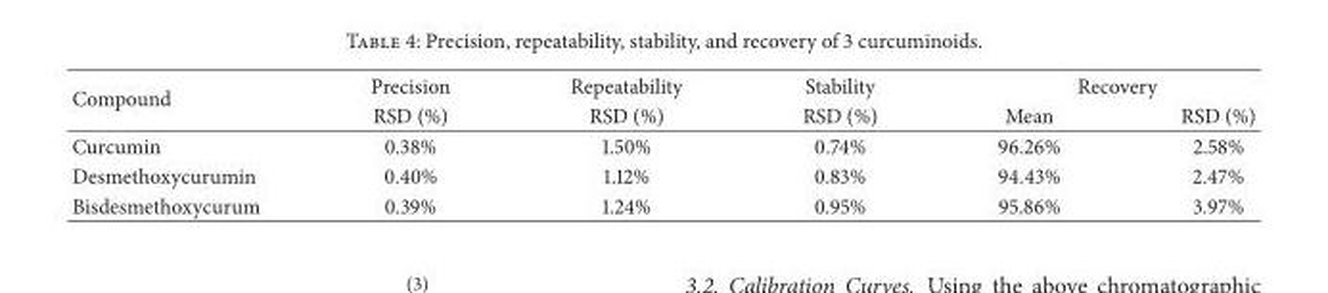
<table><thead><tr><td rowspan="2">Compound</td><td rowspan="2">Precision RSD (%)</td><td rowspan="2">Repeatability RSD (%)</td><td rowspan="2">Stability RSD (%)</td><td colspan="2">Recovery</td></tr><tr><td>Mean</td><td>RSD (%)</td></tr></thead><tbody><tr><td>Curcumin</td><td>0.38%</td><td>1.50%</td><td>0.74%</td><td>96.26%</td><td>2.58%</td></tr><tr><td>Desmethoxycurumin</td><td>0.40%</td><td>1.12%</td><td>0.83%</td><td>94.43%</td><td>2.47%</td></tr><tr><td>Bisdesmethoxycurum</td><td>0.39%</td><td>1.24%</td><td>0.95%</td><td>95.86%</td><td>3.97%</td></tr></tbody></table>